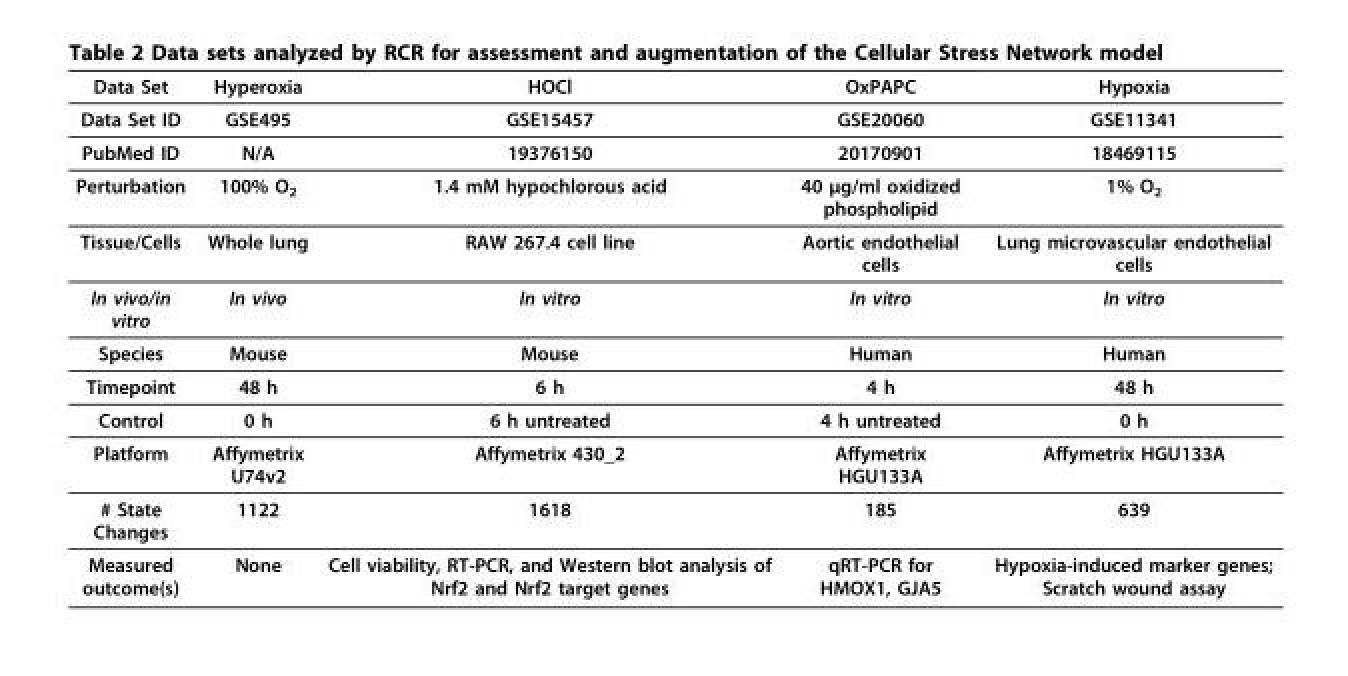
<table><thead><tr><td>Data Set</td><td>Hyperoxia</td><td>HOCl</td><td>OxPAPC</td><td>Hypoxia</td></tr></thead><tbody><tr><td>Data Set ID</td><td>GSE495</td><td>GSE15457</td><td>GSE20060</td><td>GSE11341</td></tr><tr><td>PubMed ID</td><td>N/A</td><td>19376150</td><td>20170901</td><td>18469115</td></tr><tr><td>Perturbation</td><td>100% O<sub>2</sub></td><td>1.4 mM hypochlorous acid</td><td>40 μg/ml oxidized phospholipid</td><td>1% O<sub>2</sub></td></tr><tr><td>Tissue/Cells</td><td>Whole lung</td><td>RAW 267.4 cell line</td><td>Aortic endothelial cells</td><td>Lung microvascular endothelial cells</td></tr><tr><td>In vivo/in vitro</td><td>In vivo</td><td>In vitro</td><td>In vitro</td><td>In vitro</td></tr><tr><td>Species</td><td>Mouse</td><td>Mouse</td><td>Human</td><td>Human</td></tr><tr><td>Timepoint</td><td>48 h</td><td>6 h</td><td>4 h</td><td>48 h</td></tr><tr><td>Control</td><td>0 h</td><td>6 h untreated</td><td>4 h untreated</td><td>0 h</td></tr><tr><td>Platform</td><td>Affymetrix U74v2</td><td>Affymetrix 430_2</td><td>Affymetrix HGU133A</td><td>Affymetrix HGU133A</td></tr><tr><td># State Changes</td><td>1122</td><td>1618</td><td>185</td><td>639</td></tr><tr><td>Measured outcome(s)</td><td>None</td><td>Cell viability, RT-PCR, and Western blot analysis of Nrf2 and Nrf2 target genes</td><td>qRT-PCR for HMOX1, GJA5</td><td>Hypoxia-induced marker genes; Scratch wound assay</td></tr></tbody></table>